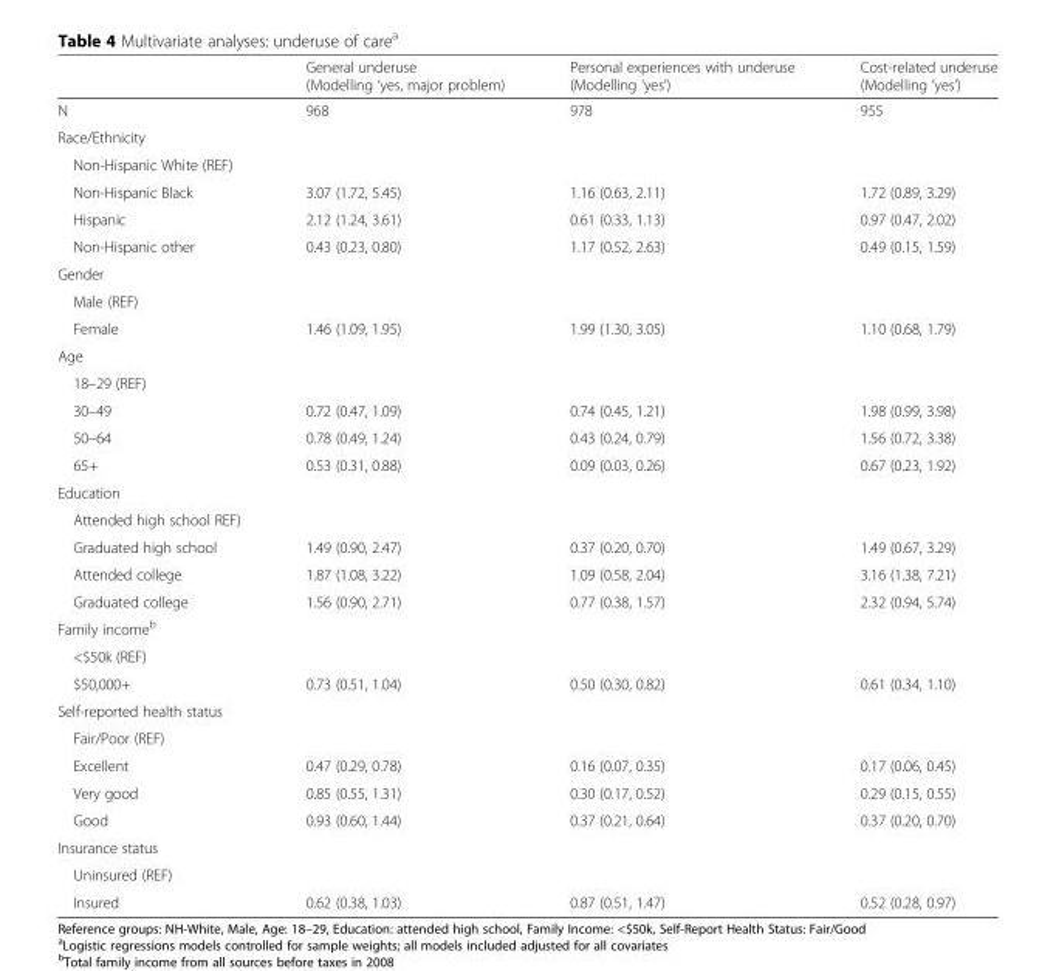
<table><thead><tr><td></td><td>General underuse (Modelling ‘yes, major problem)</td><td>Personal experiences with underuse (Modelling ‘yes’)</td><td>Cost-related underuse (Modelling ‘yes’)</td></tr></thead><tbody><tr><td>N</td><td>968</td><td>978</td><td>955</td></tr><tr><td colspan="4">Race/Ethnicity</td></tr><tr><td colspan="4">Non-Hispanic White (REF)</td></tr><tr><td>Non-Hispanic Black</td><td>3.07 (1.72, 5.45)</td><td>1.16 (0.63, 2.11)</td><td>1.72 (0.89, 3.29)</td></tr><tr><td>Hispanic</td><td>2.12 (1.24, 3.61)</td><td>0.61 (0.33, 1.13)</td><td>0.97 (0.47, 2.02)</td></tr><tr><td>Non-Hispanic other</td><td>0.43 (0.23, 0.80)</td><td>1.17 (0.52, 2.63)</td><td>0.49 (0.15, 1.59)</td></tr><tr><td colspan="4">Gender</td></tr><tr><td colspan="4">Male (REF)</td></tr><tr><td>Female</td><td>1.46 (1.09, 1.95)</td><td>1.99 (1.30, 3.05)</td><td>1.10 (0.68, 1.79)</td></tr><tr><td colspan="4">Age</td></tr><tr><td colspan="4">18–29 (REF)</td></tr><tr><td>30–49</td><td>0.72 (0.47, 1.09)</td><td>0.74 (0.45, 1.21)</td><td>1.98 (0.99, 3.98)</td></tr><tr><td>50–64</td><td>0.78 (0.49, 1.24)</td><td>0.43 (0.24, 0.79)</td><td>1.56 (0.72, 3.38)</td></tr><tr><td>65+</td><td>0.53 (0.31, 0.88)</td><td>0.09 (0.03, 0.26)</td><td>0.67 (0.23, 1.92)</td></tr><tr><td colspan="4">Education</td></tr><tr><td colspan="4">Attended high school REF)</td></tr><tr><td>Graduated high school</td><td>1.49 (0.90, 2.47)</td><td>0.37 (0.20, 0.70)</td><td>1.49 (0.67, 3.29)</td></tr><tr><td>Attended college</td><td>1.87 (1.08, 3.22)</td><td>1.09 (0.58, 2.04)</td><td>3.16 (1.38, 7.21)</td></tr><tr><td>Graduated college</td><td>1.56 (0.90, 2.71)</td><td>0.77 (0.38, 1.57)</td><td>2.32 (0.94, 5.74)</td></tr><tr><td colspan="4">Family income<sup>b</sup></td></tr><tr><td colspan="4">&lt;$50k (REF)</td></tr><tr><td>$50,000+</td><td>0.73 (0.51, 1.04)</td><td>0.50 (0.30, 0.82)</td><td>0.61 (0.34, 1.10)</td></tr><tr><td colspan="4">Self-reported health status</td></tr><tr><td colspan="4">Fair/Poor (REF)</td></tr><tr><td>Excellent</td><td>0.47 (0.29, 0.78)</td><td>0.16 (0.07, 0.35)</td><td>0.17 (0.06, 0.45)</td></tr><tr><td>Very good</td><td>0.85 (0.55, 1.31)</td><td>0.30 (0.17, 0.52)</td><td>0.29 (0.15, 0.55)</td></tr><tr><td>Good</td><td>0.93 (0.60, 1.44)</td><td>0.37 (0.21, 0.64)</td><td>0.37 (0.20, 0.70)</td></tr><tr><td colspan="4">Insurance status</td></tr><tr><td colspan="4">Uninsured (REF)</td></tr><tr><td>Insured</td><td>0.62 (0.38, 1.03)</td><td>0.87 (0.51, 1.47)</td><td>0.52 (0.28, 0.97)</td></tr></tbody></table>